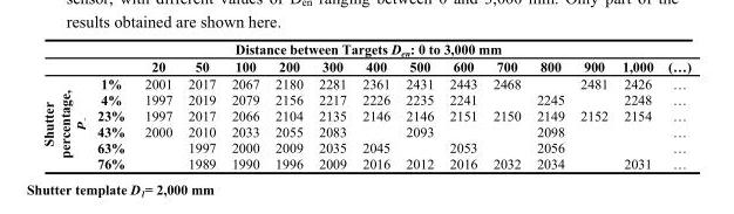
<table><thead><tr><td colspan="15">Distance between Targets D<sub>en</sub>: 0 to 3,000 mm</td></tr><tr><td></td><td></td><td>20</td><td>50</td><td>100</td><td>200</td><td>300</td><td>400</td><td>500</td><td>600</td><td>700</td><td>800</td><td>900</td><td>1,000</td><td>(…)</td></tr></thead><tbody><tr><td rowspan="6">Shutter percentage, P<sub>o</sub></td><td>1%</td><td>2001</td><td>2017</td><td>2067</td><td>2180</td><td>2281</td><td>2361</td><td>2431</td><td>2443</td><td>2468</td><td></td><td>2481</td><td>2426</td><td>…</td></tr><tr><td>4%</td><td>1997</td><td>2019</td><td>2079</td><td>2156</td><td>2217</td><td>2226</td><td>2235</td><td>2241</td><td></td><td>2245</td><td></td><td>2248</td><td>…</td></tr><tr><td>23%</td><td>1997</td><td>2017</td><td>2066</td><td>2104</td><td>2135</td><td>2146</td><td>2146</td><td>2151</td><td>2150</td><td>2149</td><td>2152</td><td>2154</td><td>…</td></tr><tr><td>43%</td><td>2000</td><td>2010</td><td>2033</td><td>2055</td><td>2083</td><td></td><td>2093</td><td></td><td></td><td>2098</td><td></td><td></td><td>…</td></tr><tr><td>63%</td><td></td><td>1997</td><td>2000</td><td>2009</td><td>2035</td><td>2045</td><td></td><td>2053</td><td></td><td>2056</td><td></td><td></td><td>…</td></tr><tr><td>76%</td><td></td><td>1989</td><td>1990</td><td>1996</td><td>2009</td><td>2016</td><td>2012</td><td>2016</td><td>2032</td><td>2034</td><td></td><td>2031</td><td>…</td></tr></tbody></table>